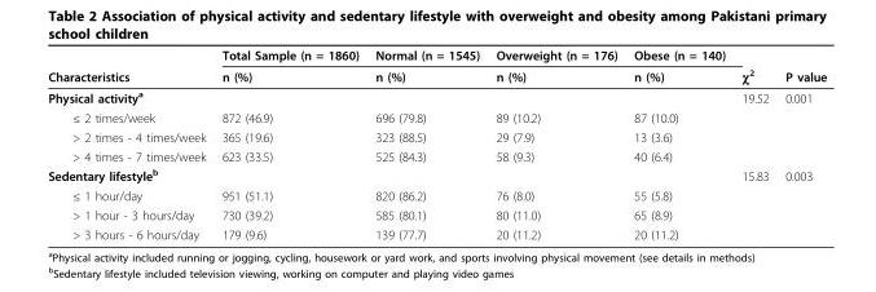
<table><thead><tr><td rowspan="2">Characteristics</td><td rowspan="2">Total Sample (n = 1860) n (%)</td><td rowspan="2">Normal (n = 1545) n (%)</td><td rowspan="2">Overweight (n = 176) n (%)</td><td rowspan="2">Obese (n = 140) n (%)</td><td rowspan="2">χ<sup>2</sup></td><td rowspan="2">P value</td></tr><tr></tr></thead><tbody><tr><td>Physical activity<sup>a</sup></td><td></td><td></td><td></td><td></td><td>19.52</td><td>0.001</td></tr><tr><td>≤ 2 times/week</td><td>872 (46.9)</td><td>696 (79.8)</td><td>89 (10.2)</td><td>87 (10.0)</td><td></td><td></td></tr><tr><td>&gt; 2 times - 4 times/week</td><td>365 (19.6)</td><td>323 (88.5)</td><td>29 (7.9)</td><td>13 (3.6)</td><td></td><td></td></tr><tr><td>&gt; 4 times - 7 times/week</td><td>623 (33.5)</td><td>525 (84.3)</td><td>58 (9.3)</td><td>40 (6.4)</td><td></td><td></td></tr><tr><td>Sedentary lifestyle<sup>b</sup></td><td></td><td></td><td></td><td></td><td>15.83</td><td>0.003</td></tr><tr><td>≤ 1 hour/day</td><td>951 (51.1)</td><td>820 (86.2)</td><td>76 (8.0)</td><td>55 (5.8)</td><td></td><td></td></tr><tr><td>&gt; 1 hour - 3 hours/day</td><td>730 (39.2)</td><td>585 (80.1)</td><td>80 (11.0)</td><td>65 (8.9)</td><td></td><td></td></tr><tr><td>&gt; 3 hours - 6 hours/day</td><td>179 (9.6)</td><td>139 (77.7)</td><td>20 (11.2)</td><td>20 (11.2)</td><td></td><td></td></tr></tbody></table>